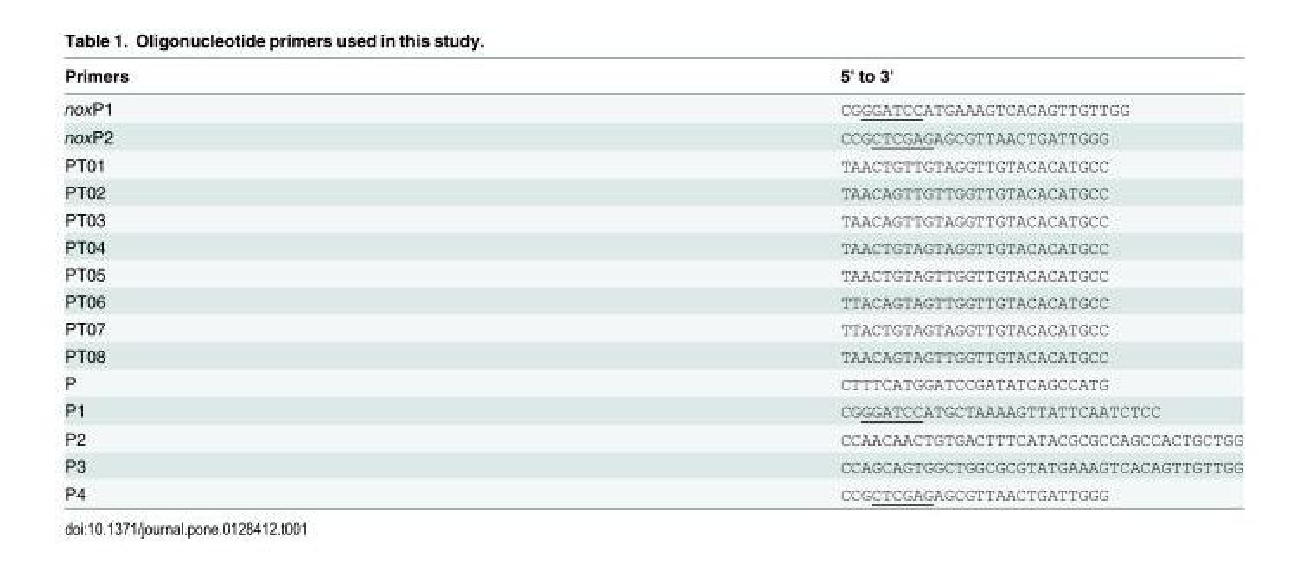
<table><thead><tr><td>Primers</td><td>5&#x27; to 3&#x27;</td></tr></thead><tbody><tr><td>noxP1</td><td>CGGGATCCATGAAAGTCACAGTTGTTGG</td></tr><tr><td>noxP2</td><td>CCGCTCGAGAGCGTTAACTGATTGGG</td></tr><tr><td>PT01</td><td>TAACTGTTGTAGGTTGTACACATGCC</td></tr><tr><td>PT02</td><td>TAACAGTTGTTGGTTGTACACATGCC</td></tr><tr><td>PT03</td><td>TAACAGTTGTAGGTTGTACACATGCC</td></tr><tr><td>PT04</td><td>TAACTGTAGTAGGTTGTACACATGCC</td></tr><tr><td>PT05</td><td>TAACTGTAGTTGGTTGTACACATGCC</td></tr><tr><td>PT06</td><td>TTACAGTAGTTGGTTGTACACATGCC</td></tr><tr><td>PT07</td><td>TTACTGTAGTAGGTTGTACACATGCC</td></tr><tr><td>PT08</td><td>TAACAGTAGTTGGTTGTACACATGCC</td></tr><tr><td>P</td><td>CTTTCATGGATCCGATATCAGCCATG</td></tr><tr><td>P1</td><td>CGGGATCCATGCTAAAAGTTATTCAATCTCC</td></tr><tr><td>P2</td><td>CCAACAACTGTGACTTTCATACGCGCCAGCCACTGCTGG</td></tr><tr><td>P3</td><td>CCAGCAGTGGCTGGCGCGTATGAAAGTCACAGTTGTTGG</td></tr><tr><td>P4</td><td>CCGCTCGAGAGCGTTAACTGATTGGG</td></tr></tbody></table>